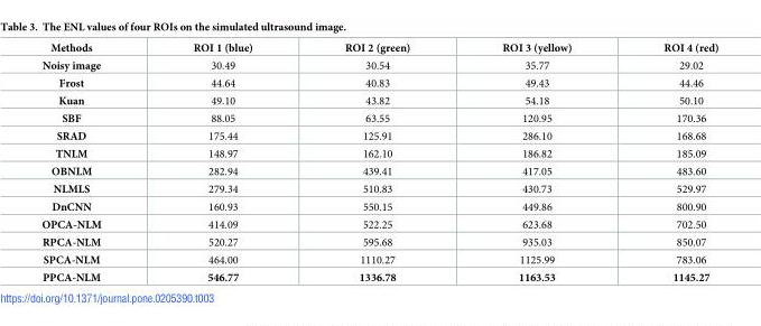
<table><thead><tr><td>Methods</td><td>ROI 1 (blue)</td><td>ROI 2 (green)</td><td>ROI 3 (yellow)</td><td>ROI 4 (red)</td></tr></thead><tbody><tr><td>Noisy image</td><td>30.49</td><td>30.54</td><td>35.77</td><td>29.02</td></tr><tr><td>Frost</td><td>44.64</td><td>40.83</td><td>49.43</td><td>44.46</td></tr><tr><td>Kuan</td><td>49.10</td><td>43.82</td><td>54.18</td><td>50.10</td></tr><tr><td>SBF</td><td>88.05</td><td>63.55</td><td>120.95</td><td>170.36</td></tr><tr><td>SRAD</td><td>175.44</td><td>125.91</td><td>286.10</td><td>168.68</td></tr><tr><td>TNLM</td><td>148.97</td><td>162.10</td><td>186.82</td><td>185.09</td></tr><tr><td>OBNLM</td><td>282.94</td><td>439.41</td><td>417.05</td><td>483.60</td></tr><tr><td>NLMLS</td><td>279.34</td><td>510.83</td><td>430.73</td><td>529.97</td></tr><tr><td>DnCNN</td><td>160.93</td><td>550.15</td><td>449.86</td><td>800.90</td></tr><tr><td>OPCA-NLM</td><td>414.09</td><td>522.25</td><td>623.68</td><td>702.50</td></tr><tr><td>RPCA-NLM</td><td>520.27</td><td>595.68</td><td>935.03</td><td>850.07</td></tr><tr><td>SPCA-NLM</td><td>464.00</td><td>1110.27</td><td>1125.99</td><td>783.06</td></tr><tr><td>PPCA-NLM</td><td>546.77</td><td>1336.78</td><td>1163.53</td><td>1145.27</td></tr></tbody></table>